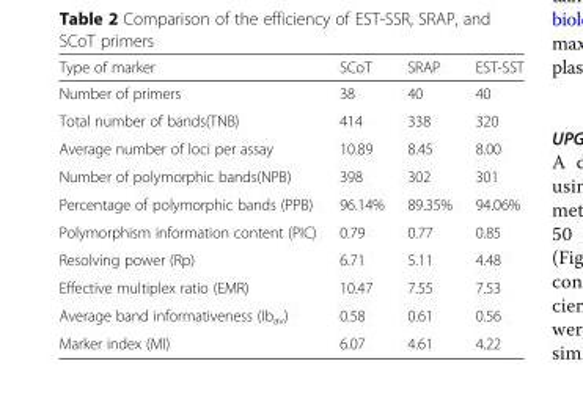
<table><thead><tr><td>Type of marker</td><td>SCoT</td><td>SRAP</td><td>EST-SST</td></tr></thead><tbody><tr><td>Number of primers</td><td>38</td><td>40</td><td>40</td></tr><tr><td>Total number of bands(TNB)</td><td>414</td><td>338</td><td>320</td></tr><tr><td>Average number of loci per assay</td><td>10.89</td><td>8.45</td><td>8.00</td></tr><tr><td>Number of polymorphic bands(NPB)</td><td>398</td><td>302</td><td>301</td></tr><tr><td>Percentage of polymorphic bands (PPB)</td><td>96.14%</td><td>89.35%</td><td>94.06%</td></tr><tr><td>Polymorphism information content (PIC)</td><td>0.79</td><td>0.77</td><td>0.85</td></tr><tr><td>Resolving power (Rp)</td><td>6.71</td><td>5.11</td><td>4.48</td></tr><tr><td>Effective multiplex ratio (EMR)</td><td>10.47</td><td>7.55</td><td>7.53</td></tr><tr><td>Average band informativeness (Ib<sub>av</sub>)</td><td>0.58</td><td>0.61</td><td>0.56</td></tr><tr><td>Marker index (MI)</td><td>6.07</td><td>4.61</td><td>4.22</td></tr></tbody></table>